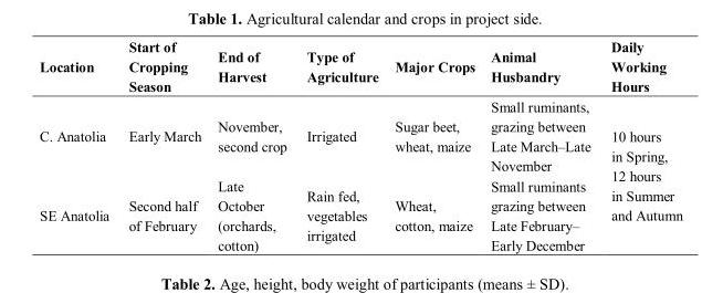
<table><thead><tr><td>Location</td><td>Start of Cropping Season</td><td>End of Harvest</td><td>Type of Agriculture</td><td>Major Crops</td><td>Animal Husbandry</td><td>Daily Working Hours</td></tr></thead><tbody><tr><td>C. Anatolia</td><td>Early March</td><td>November, second crop</td><td>Irrigated</td><td>Sugar beet, wheat, maize</td><td>Small ruminants, grazing between Late March–Late November</td><td rowspan="2">10 hours in Spring, 12 hours in Summer and Autumn</td></tr><tr><td>SE Anatolia</td><td>Second half of February</td><td>Late October (orchards, cotton)</td><td>Rain fed, vegetables irrigated</td><td>Wheat, cotton, maize</td><td>Small ruminants grazing between Late February– Early December</td></tr></tbody></table>